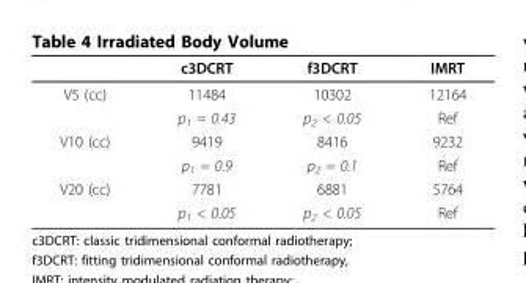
<table><thead><tr><td></td><td>c3DCRT</td><td>f3DCRT</td><td>IMRT</td></tr></thead><tbody><tr><td rowspan="2">V5 (cc)</td><td>11484</td><td>10302</td><td>12164</td></tr><tr><td>p<sub>1</sub> = 0.43</td><td>p<sub>2</sub> &lt; 0.05</td><td>Ref</td></tr><tr><td rowspan="2">V10 (cc)</td><td>9419</td><td>8416</td><td>9232</td></tr><tr><td>p<sub>1</sub> = 0.9</td><td>p<sub>2</sub> = 0.1</td><td>Ref</td></tr><tr><td rowspan="2">V20 (cc)</td><td>7781</td><td>6881</td><td>5764</td></tr><tr><td>p<sub>1</sub> &lt; 0.05</td><td>p<sub>2</sub> &lt; 0.05</td><td>Ref</td></tr></tbody></table>